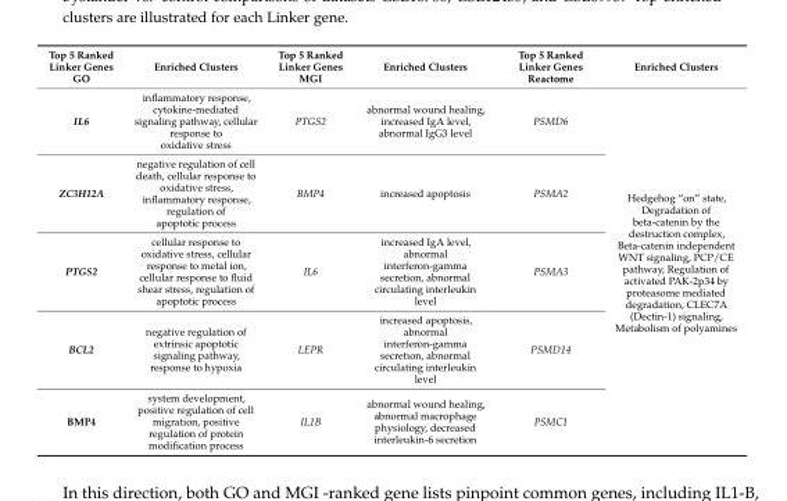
<table><thead><tr><td>Top 5 Ranked Linker Genes GO</td><td>Enriched Clusters</td><td>Top 5 Ranked Linker Genes MGI</td><td>Enriched Clusters</td><td>Top 5 Ranked Linker Genes Reactome</td><td>Enriched Clusters</td></tr></thead><tbody><tr><td>IL6</td><td>inflammatory response, cytokine-mediated signaling pathway, cellular response to oxidative stress</td><td>PTGS2</td><td>abnormal wound healing, increased IgA level, abnormal IgG3 level</td><td>PSMD6</td><td rowspan="5">Hedgehog “on” state, Degradation of beta-catenin by the destruction complex, Beta-catenin independent WNT signaling, PCP/CE pathway, Regulation of activated PAK-2p34 by proteasome mediated degradation, CLEC7A (Dectin-1) signaling, Metabolism of polyamines</td></tr><tr><td>ZC3H12A</td><td>negative regulation of cell death, cellular response to oxidative stress, inflammatory response, regulation of apoptotic process</td><td>BMP4</td><td>increased apoptosis</td><td>PSMA2</td></tr><tr><td>PTGS2</td><td>cellular response to oxidative stress, cellular response to metal ion, cellular response to fluid shear stress, regulation of apoptotic process</td><td>IL6</td><td>increased IgA level, abnormal interferon-gamma secretion, abnormal circulating interleukin level</td><td>PSMA3</td></tr><tr><td>BCL2</td><td>negative regulation of extrinsic apoptotic signaling pathway, response to hypoxia</td><td>LEPR</td><td>increased apoptosis, abnormal interferon-gamma secretion, abnormal circulating interleukin level</td><td>PSMD14</td></tr><tr><td>BMP4</td><td>system development, positive regulation of cell migration, positive regulation of protein modification process</td><td>IL1B</td><td>abnormal wound healing, abnormal macrophage physiology, decreased interleukin-6 secretion</td><td>PSMC1</td></tr></tbody></table>